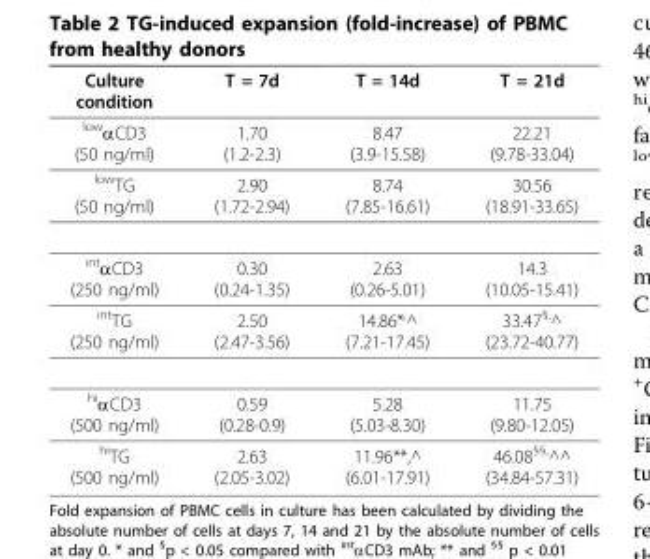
<table><thead><tr><td>Culture condition</td><td>T = 7d</td><td>T = 14d</td><td>T = 21d</td></tr></thead><tbody><tr><td>lowαCD3 (50 ng/ml)</td><td>1.70 (1.2-2.3)</td><td>8.47 (3.9-15.58)</td><td>22.21 (9.78-33.04)</td></tr><tr><td>lowTG (50 ng/ml)</td><td>2.90 (1.72-2.94)</td><td>8.74 (7.85-16.61)</td><td>30.56 (18.91-33.65)</td></tr><tr><td>intαCD3 (250 ng/ml)</td><td>0.30 (0.24-1.35)</td><td>2.63 (0.26-5.01)</td><td>14.3 (10.05-15.41)</td></tr><tr><td>intTG (250 ng/ml)</td><td>2.50 (2.47-3.56)</td><td>14.86*,^ (7.21-17.45)</td><td>33.47§,^ (23.72-40.77)</td></tr><tr><td>hiαCD3 (500 ng/ml)</td><td>0.59 (0.28-0.9)</td><td>5.28 (5.03-8.30)</td><td>11.75 (9.80-12.05)</td></tr><tr><td>hiTG (500 ng/ml)</td><td>2.63 (2.05-3.02)</td><td>11.96**,^ (6.01-17.91)</td><td>46.08§§,^^ (34.84-57.31)</td></tr></tbody></table>